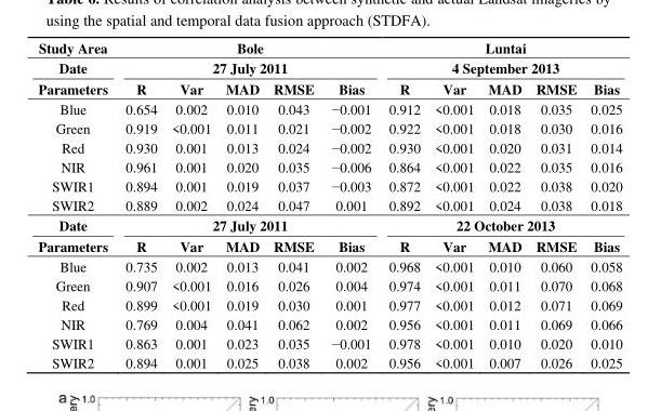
<table><thead><tr><td rowspan="3">Study Area Date Parameters</td><td rowspan="2" colspan="5">Bole 27 July 2011</td><td rowspan="2" colspan="5">Luntai 4 September 2013</td></tr><tr></tr><tr><td>R</td><td>Var</td><td>MAD</td><td>RMSE</td><td>Bias</td><td>R</td><td>Var</td><td>MAD</td><td>RMSE</td><td>Bias</td></tr></thead><tbody><tr><td>Blue</td><td>0.654</td><td>0.002</td><td>0.010</td><td>0.043</td><td>−0.001</td><td>0.912</td><td>&lt;0.001</td><td>0.018</td><td>0.035</td><td>0.025</td></tr><tr><td>Green</td><td>0.919</td><td>&lt;0.001</td><td>0.011</td><td>0.021</td><td>−0.002</td><td>0.922</td><td>&lt;0.001</td><td>0.018</td><td>0.030</td><td>0.016</td></tr><tr><td>Red</td><td>0.930</td><td>0.001</td><td>0.013</td><td>0.024</td><td>−0.002</td><td>0.930</td><td>&lt;0.001</td><td>0.020</td><td>0.031</td><td>0.014</td></tr><tr><td>NIR</td><td>0.961</td><td>0.001</td><td>0.020</td><td>0.035</td><td>−0.006</td><td>0.864</td><td>&lt;0.001</td><td>0.022</td><td>0.035</td><td>0.016</td></tr><tr><td>SWIR1</td><td>0.894</td><td>0.001</td><td>0.019</td><td>0.037</td><td>−0.003</td><td>0.872</td><td>&lt;0.001</td><td>0.022</td><td>0.038</td><td>0.020</td></tr><tr><td>SWIR2</td><td>0.889</td><td>0.002</td><td>0.024</td><td>0.047</td><td>0.001</td><td>0.892</td><td>&lt;0.001</td><td>0.024</td><td>0.038</td><td>0.018</td></tr><tr><td>Date</td><td colspan="5">27 July 2011</td><td colspan="5">22 October 2013</td></tr><tr><td>Parameters</td><td>R</td><td>Var</td><td>MAD</td><td>RMSE</td><td>Bias</td><td>R</td><td>Var</td><td>MAD</td><td>RMSE</td><td>Bias</td></tr><tr><td>Blue</td><td>0.735</td><td>0.002</td><td>0.013</td><td>0.041</td><td>0.002</td><td>0.968</td><td>&lt;0.001</td><td>0.010</td><td>0.060</td><td>0.058</td></tr><tr><td>Green</td><td>0.907</td><td>&lt;0.001</td><td>0.016</td><td>0.026</td><td>0.004</td><td>0.974</td><td>&lt;0.001</td><td>0.011</td><td>0.070</td><td>0.068</td></tr><tr><td>Red</td><td>0.899</td><td>&lt;0.001</td><td>0.019</td><td>0.030</td><td>0.001</td><td>0.977</td><td>&lt;0.001</td><td>0.012</td><td>0.071</td><td>0.069</td></tr><tr><td>NIR</td><td>0.769</td><td>0.004</td><td>0.041</td><td>0.062</td><td>0.002</td><td>0.956</td><td>&lt;0.001</td><td>0.011</td><td>0.069</td><td>0.066</td></tr><tr><td>SWIR1</td><td>0.863</td><td>0.001</td><td>0.023</td><td>0.035</td><td>−0.001</td><td>0.978</td><td>&lt;0.001</td><td>0.010</td><td>0.020</td><td>0.010</td></tr><tr><td>SWIR2</td><td>0.894</td><td>0.001</td><td>0.025</td><td>0.038</td><td>0.002</td><td>0.956</td><td>&lt;0.001</td><td>0.007</td><td>0.026</td><td>0.025</td></tr></tbody></table>